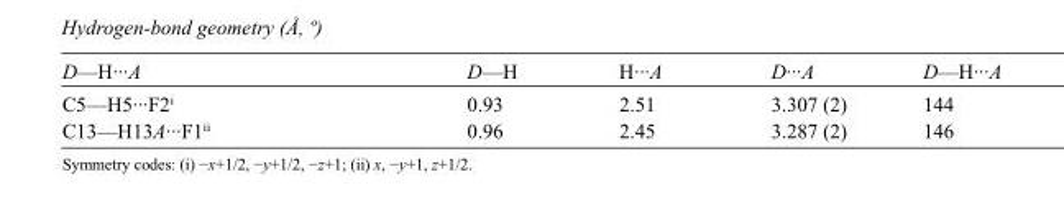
<table><tbody><tr><td>D—H···A</td><td>D—H</td><td>H···A</td><td>D···A</td><td>D—H···A</td></tr><tr><td>C5—H5···F2<sup>i</sup></td><td>0.93</td><td>2.51</td><td>3.307 (2)</td><td>144</td></tr><tr><td>C13—H13A···F1<sup>ii</sup></td><td>0.96</td><td>2.45</td><td>3.287 (2)</td><td>146</td></tr></tbody></table>